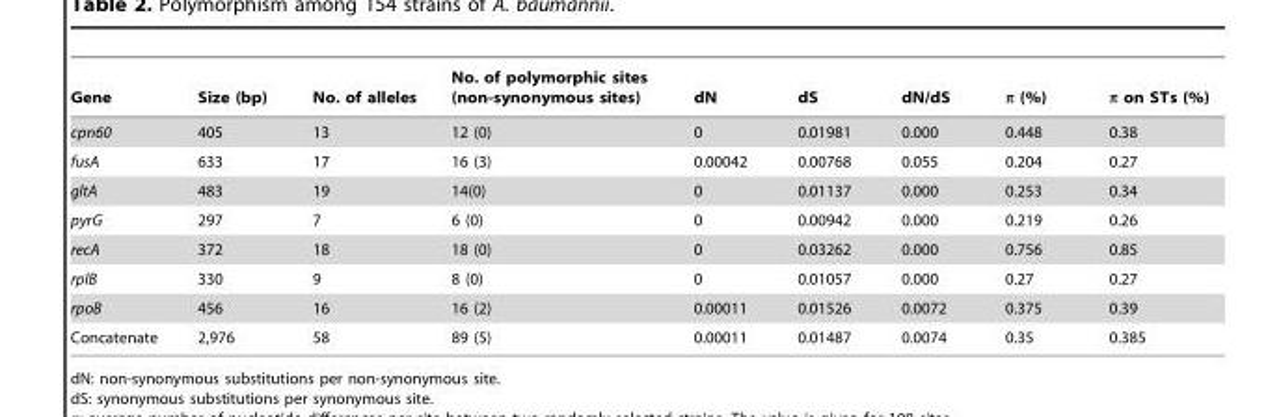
<table><thead><tr><td>Gene</td><td>Size (bp)</td><td>No. of alleles</td><td>No. of polymorphic sites (non-synonymous sites)</td><td>dN</td><td>dS</td><td>dN/dS</td><td>π (%)</td><td>π on STs (%)</td></tr></thead><tbody><tr><td>cpn60</td><td>405</td><td>13</td><td>12 (0)</td><td>0</td><td>0.01981</td><td>0.000</td><td>0.448</td><td>0.38</td></tr><tr><td>fusA</td><td>633</td><td>17</td><td>16 (3)</td><td>0.00042</td><td>0.00768</td><td>0.055</td><td>0.204</td><td>0.27</td></tr><tr><td>gltA</td><td>483</td><td>19</td><td>14(0)</td><td>0</td><td>0.01137</td><td>0.000</td><td>0.253</td><td>0.34</td></tr><tr><td>pyrG</td><td>297</td><td>7</td><td>6 (0)</td><td>0</td><td>0.00942</td><td>0.000</td><td>0.219</td><td>0.26</td></tr><tr><td>recA</td><td>372</td><td>18</td><td>18 (0)</td><td>0</td><td>0.03262</td><td>0.000</td><td>0.756</td><td>0.85</td></tr><tr><td>rplB</td><td>330</td><td>9</td><td>8 (0)</td><td>0</td><td>0.01057</td><td>0.000</td><td>0.27</td><td>0.27</td></tr><tr><td>rpoB</td><td>456</td><td>16</td><td>16 (2)</td><td>0.00011</td><td>0.01526</td><td>0.0072</td><td>0.375</td><td>0.39</td></tr><tr><td>Concatenate</td><td>2,976</td><td>58</td><td>89 (5)</td><td>0.00011</td><td>0.01487</td><td>0.0074</td><td>0.35</td><td>0.385</td></tr></tbody></table>